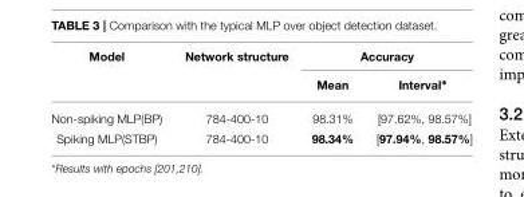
<table><thead><tr><td rowspan="2">Model</td><td rowspan="2">Network structure</td><td colspan="2">Accuracy</td></tr><tr><td>Mean</td><td>Interval∗</td></tr></thead><tbody><tr><td>Non-spiking MLP(BP)</td><td>784-400-10</td><td>98.31%</td><td>[97.62%, 98.57%]</td></tr><tr><td>Spiking MLP(STBP)</td><td>784-400-10</td><td>98.34%</td><td>[97.94%, 98.57%]</td></tr></tbody></table>